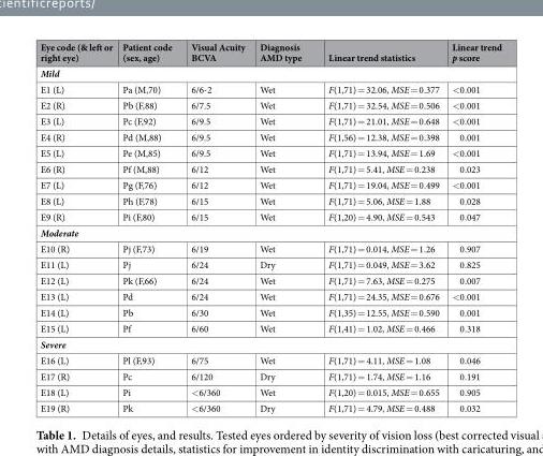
<table><thead><tr><td>Eye code (&amp; left or right eye)</td><td>Patient code (sex, age)</td><td>Visual Acuity BCVA</td><td>Diagnosis AMD type</td><td>Linear trend statistics</td><td>Linear trend p score</td></tr></thead><tbody><tr><td colspan="6">Mild</td></tr><tr><td>E1 (L)</td><td>Pa (M,70)</td><td>6/6-2</td><td>Wet</td><td>F(1,71) = 32.06, MSE = 0.377</td><td>&lt;0.001</td></tr><tr><td>E2 (R)</td><td>Pb (F,88)</td><td>6/7.5</td><td>Wet</td><td>F(1,71) = 32.54, MSE = 0.506</td><td>&lt;0.001</td></tr><tr><td>E3 (L)</td><td>Pc (F,92)</td><td>6/9.5</td><td>Wet</td><td>F(1,71) = 21.01, MSE = 0.648</td><td>&lt;0.001</td></tr><tr><td>E4 (R)</td><td>Pd (M,88)</td><td>6/9.5</td><td>Wet</td><td>F(1,56) = 12.38, MSE = 0.398</td><td>0.001</td></tr><tr><td>E5 (L)</td><td>Pe (M,85)</td><td>6/9.5</td><td>Wet</td><td>F(1,71) = 13.94, MSE = 1.69</td><td>&lt;0.001</td></tr><tr><td>E6 (R)</td><td>Pf (M,88)</td><td>6/12</td><td>Wet</td><td>F(1,71) = 5.41, MSE = 0.238</td><td>0.023</td></tr><tr><td>E7 (L)</td><td>Pg (F,76)</td><td>6/12</td><td>Wet</td><td>F(1,71) = 19.04, MSE = 0.499</td><td>&lt;0.001</td></tr><tr><td>E8 (L)</td><td>Ph (F,78)</td><td>6/15</td><td>Wet</td><td>F(1,71) = 5.06, MSE = 1.88</td><td>0.028</td></tr><tr><td>E9 (R)</td><td>Pi (F,80)</td><td>6/15</td><td>Wet</td><td>F(1,20) = 4.90, MSE = 0.543</td><td>0.047</td></tr><tr><td colspan="6">Moderate</td></tr><tr><td>E10 (R)</td><td>Pj (F,73)</td><td>6/19</td><td>Wet</td><td>F(1,71) = 0.014, MSE = 1.26</td><td>0.907</td></tr><tr><td>E11 (L)</td><td>Pj</td><td>6/24</td><td>Dry</td><td>F(1,71) = 0.049, MSE = 3.62</td><td>0.825</td></tr><tr><td>E12 (L)</td><td>Pk (F,66)</td><td>6/24</td><td>Wet</td><td>F(1,71) = 7.63, MSE = 0.275</td><td>0.007</td></tr><tr><td>E13 (L)</td><td>Pd</td><td>6/24</td><td>Wet</td><td>F(1,71) = 24.35, MSE = 0.676</td><td>&lt;0.001</td></tr><tr><td>E14 (L)</td><td>Pb</td><td>6/30</td><td>Wet</td><td>F(1,35) = 12.55, MSE = 0.590</td><td>0.001</td></tr><tr><td>E15 (L)</td><td>Pf</td><td>6/60</td><td>Wet</td><td>F(1,41) = 1.02, MSE = 0.466</td><td>0.318</td></tr><tr><td colspan="6">Severe</td></tr><tr><td>E16 (L)</td><td>Pl (F,93)</td><td>6/75</td><td>Wet</td><td>F(1,71) = 4.11, MSE = 1.08</td><td>0.046</td></tr><tr><td>E17 (R)</td><td>Pc</td><td>6/120</td><td>Dry</td><td>F(1,71) = 1.74, MSE = 1.16</td><td>0.191</td></tr><tr><td>E18 (L)</td><td>Pi</td><td>&lt;6/360</td><td>Wet</td><td>F(1,20) = 0.015, MSE = 0.655</td><td>0.905</td></tr><tr><td>E19 (R)</td><td>Pk</td><td>&lt;6/360</td><td>Dry</td><td>F(1,71) = 4.79, MSE = 0.488</td><td>0.032</td></tr></tbody></table>